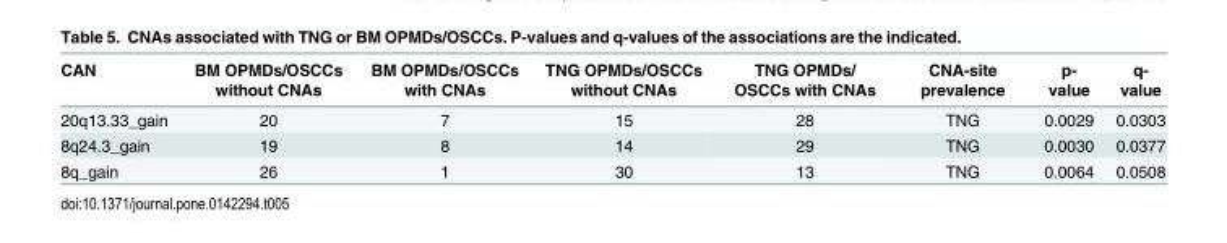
<table><thead><tr><td>CAN</td><td>BM OPMDs/OSCCs without CNAs</td><td>BM OPMDs/OSCCs with CNAs</td><td>TNG OPMDs/OSCCs without CNAs</td><td>TNG OPMDs/ OSCCs with CNAs</td><td>CNA-site prevalence</td><td>p- value</td><td>q- value</td></tr></thead><tbody><tr><td>20q13.33_gain</td><td>20</td><td>7</td><td>15</td><td>28</td><td>TNG</td><td>0.0029</td><td>0.0303</td></tr><tr><td>8q24.3_gain</td><td>19</td><td>8</td><td>14</td><td>29</td><td>TNG</td><td>0.0030</td><td>0.0377</td></tr><tr><td>8q_gain</td><td>26</td><td>1</td><td>30</td><td>13</td><td>TNG</td><td>0.0064</td><td>0.0508</td></tr></tbody></table>